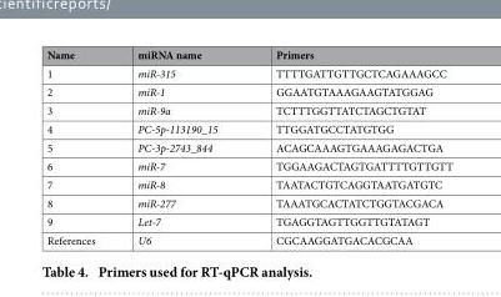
<table><thead><tr><td>Name</td><td>miRNA name</td><td>Primers</td></tr></thead><tbody><tr><td>1</td><td>miR-315</td><td>TTTTGATTGTTGCTCAGAAAGCC</td></tr><tr><td>2</td><td>miR-1</td><td>GGAATGTAAAGAAGTATGGAG</td></tr><tr><td>3</td><td>miR-9a</td><td>TCTTTGGTTATCTAGCTGTAT</td></tr><tr><td>4</td><td>PC-5p-113190_15</td><td>TTGGATGCCTATGTGG</td></tr><tr><td>5</td><td>PC-3p-2743_844</td><td>ACAGCAAAGTGAAAGAGACTGA</td></tr><tr><td>6</td><td>miR-7</td><td>TGGAAGACTAGTGATTTTGTTGTT</td></tr><tr><td>7</td><td>miR-8</td><td>TAATACTGTCAGGTAATGATGTC</td></tr><tr><td>8</td><td>miR-277</td><td>TAAATGCACTATCTGGTACGACA</td></tr><tr><td>9</td><td>Let-7</td><td>TGAGGTAGTTGGTTGTATAGT</td></tr><tr><td>References</td><td>U6</td><td>CGCAAGGATGACACGCAA</td></tr></tbody></table>